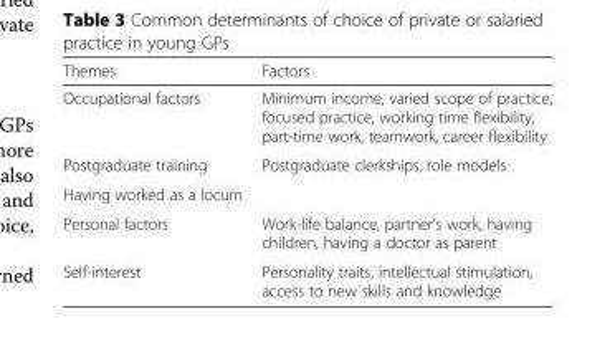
<table><thead><tr><td>Themes</td><td>Factors</td></tr></thead><tbody><tr><td>Occupational factors</td><td>Minimum income, varied scope of practice, focused practice, working time flexibility, part-time work, teamwork, career flexibility</td></tr><tr><td>Postgraduate training</td><td>Postgraduate clerkships, role models</td></tr><tr><td colspan="2">Having worked as a locum</td></tr><tr><td>Personal factors</td><td>Work-life balance, partner’s work, having children, having a doctor as parent</td></tr><tr><td>Self-interest</td><td>Personality traits, intellectual stimulation, access to new skills and knowledge</td></tr></tbody></table>